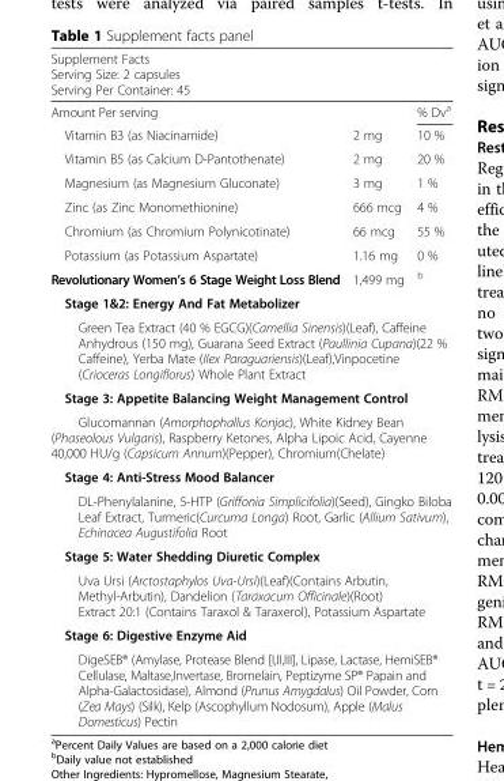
<table><thead><tr><td rowspan="3" colspan="3">Supplement Facts Serving Size: 2 capsules Serving Per Container: 45</td></tr><tr></tr><tr></tr><tr><td colspan="2">Amount Per serving</td><td rowspan="2">% Dv<sup>a</sup> 10 %</td></tr><tr><td>Vitamin B3 (as Niacinamide)</td><td>2 mg</td></tr></thead><tbody><tr><td>Vitamin B5 (as Calcium D-Pantothenate)</td><td>2 mg</td><td>20 %</td></tr><tr><td>Magnesium (as Magnesium Gluconate)</td><td>3 mg</td><td>1 %</td></tr><tr><td>Zinc (as Zinc Monomethionine)</td><td>666 mcg</td><td>4 %</td></tr><tr><td>Chromium (as Chromium Polynicotinate)</td><td>66 mcg</td><td>55 %</td></tr><tr><td>Potassium (as Potassium Aspartate)</td><td>1.16 mg</td><td>0 %</td></tr><tr><td>Revolutionary Women’s 6 Stage Weight Loss Blend</td><td>1,499 mg</td><td><sup>b</sup></td></tr><tr><td colspan="3">Stage 1&amp;2: Energy And Fat Metabolizer</td></tr><tr><td colspan="3">Green Tea Extract (40 % EGCG)(Camellia Sinensis)(Leaf), Caffeine Anhydrous (150 mg), Guarana Seed Extract (Paullinia Cupana)(22 % Caffeine), Yerba Mate (IIex Paraguariensis)(Leaf),Vinpocetine (Crioceras Longiflorus) Whole Plant Extract</td></tr><tr><td colspan="3">Stage 3: Appetite Balancing Weight Management Control</td></tr><tr><td colspan="3">Glucomannan (Amorphophallus Konjac), White Kidney Bean (Phaseolous Vulgaris), Raspberry Ketones, Alpha Lipoic Acid, Cayenne 40,000 HU/g (Capsicum Annum)(Pepper), Chromium(Chelate)</td></tr><tr><td colspan="3">Stage 4: Anti-Stress Mood Balancer</td></tr><tr><td colspan="3">DL-Phenylalanine, 5-HTP (Griffonia Simplicifolia)(Seed), Gingko Biloba Leaf Extract, Turmeric(Curcuma Longa) Root, Garlic (Allium Sativum), Echinacea Augustifolia Root</td></tr><tr><td colspan="3">Stage 5: Water Shedding Diuretic Complex</td></tr><tr><td colspan="3">Uva Ursi (Arctostaphylos Uva-Ursi)(Leaf)(Contains Arbutin, Methyl-Arbutin), Dandelion (Taraxacum Officinale)(Root) Extract 20:1 (Contains Taraxol &amp; Taraxerol), Potassium Aspartate</td></tr><tr><td colspan="3">Stage 6: Digestive Enzyme Aid</td></tr><tr><td colspan="3">DigeSEB® (Amylase, Protease Blend [I,II,III], Lipase, Lactase, HemiSEB® Cellulase, Maltase,Invertase, Bromelain, Peptizyme SP® Papain and Alpha-Galactosidase), Almond (Prunus Amygdalus) Oil Powder, Corn (Zea Mays) (Silk), Kelp (Ascophyllum Nodosum), Apple (Malus Domesticus) Pectin</td></tr></tbody></table>